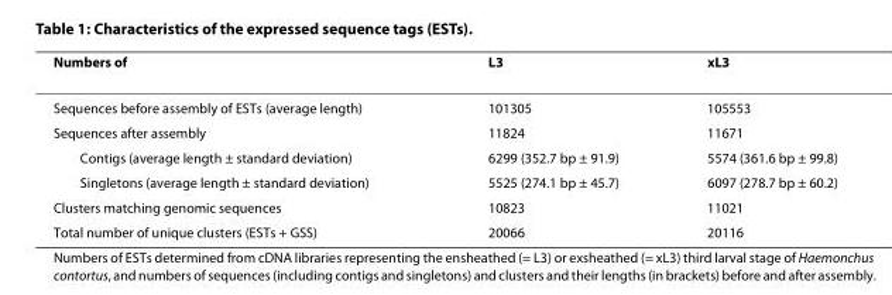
<table><thead><tr><td>Numbers of</td><td>L3</td><td>xL3</td></tr></thead><tbody><tr><td>Sequences before assembly of ESTs (average length)</td><td>101305</td><td>105553</td></tr><tr><td>Sequences after assembly</td><td>11824</td><td>11671</td></tr><tr><td>Contigs (average length ± standard deviation)</td><td>6299 (352.7 bp ± 91.9)</td><td>5574 (361.6 bp ± 99.8)</td></tr><tr><td>Singletons (average length ± standard deviation)</td><td>5525 (274.1 bp ± 45.7)</td><td>6097 (278.7 bp ± 60.2)</td></tr><tr><td>Clusters matching genomic sequences</td><td>10823</td><td>11021</td></tr><tr><td>Total number of unique clusters (ESTs + GSS)</td><td>20066</td><td>20116</td></tr></tbody></table>